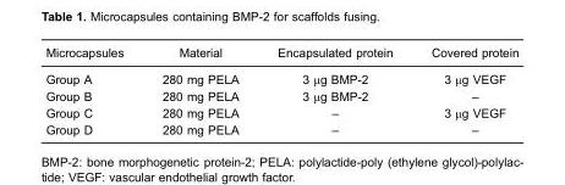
<table><thead><tr><td>Microcapsules</td><td>Material</td><td>Encapsulated protein</td><td>Covered protein</td></tr></thead><tbody><tr><td>Group A</td><td>280 mg PELA</td><td>3 μg BMP-2</td><td>3 μg VEGF</td></tr><tr><td>Group B</td><td>280 mg PELA</td><td>3 μg BMP-2</td><td>–</td></tr><tr><td>Group C</td><td>280 mg PELA</td><td>–</td><td>3 μg VEGF</td></tr><tr><td>Group D</td><td>280 mg PELA</td><td>–</td><td>–</td></tr></tbody></table>